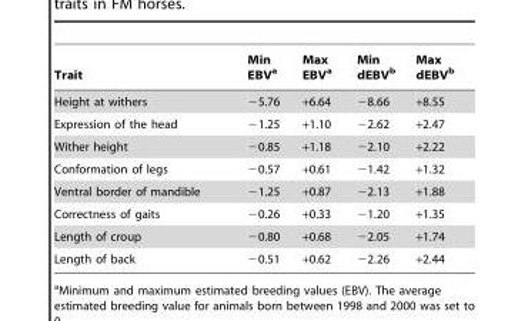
<table><thead><tr><td>Trait</td><td>Min EBV<sup>a</sup></td><td>Max EBV<sup>a</sup></td><td>Min dEBV<sup>b</sup></td><td>Max dEBV<sup>b</sup></td></tr></thead><tbody><tr><td>Height at withers</td><td>−5.76</td><td>+6.64</td><td>−8.66</td><td>+8.55</td></tr><tr><td>Expression of the head</td><td>−1.25</td><td>+1.10</td><td>−2.62</td><td>+2.47</td></tr><tr><td>Wither height</td><td>−0.85</td><td>+1.18</td><td>−2.10</td><td>+2.22</td></tr><tr><td>Conformation of legs</td><td>−0.57</td><td>+0.61</td><td>−1.42</td><td>+1.32</td></tr><tr><td>Ventral border of mandible</td><td>−1.25</td><td>+0.87</td><td>−2.13</td><td>+1.88</td></tr><tr><td>Correctness of gaits</td><td>−0.26</td><td>+0.33</td><td>−1.20</td><td>+1.35</td></tr><tr><td>Length of croup</td><td>−0.80</td><td>+0.68</td><td>−2.05</td><td>+1.74</td></tr><tr><td>Length of back</td><td>−0.51</td><td>+0.62</td><td>−2.26</td><td>+2.44</td></tr></tbody></table>